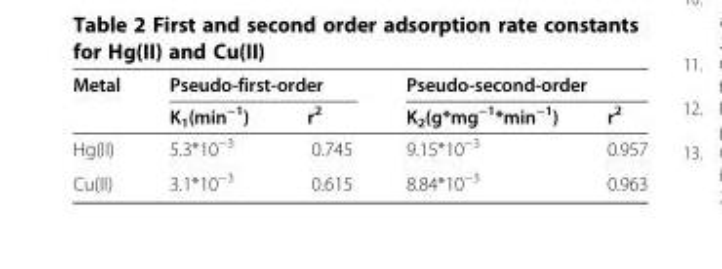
<table><thead><tr><td rowspan="2">Metal</td><td colspan="2">Pseudo-first-order</td><td colspan="2">Pseudo-second-order</td></tr><tr><td>K<sub>1</sub>(min<sup>−1</sup>)</td><td>r<sup>2</sup></td><td>K<sub>2</sub>(g*mg<sup>−1</sup>*min<sup>−1</sup>)</td><td>r<sup>2</sup></td></tr></thead><tbody><tr><td>Hg(II)</td><td>5.3*10<sup>−3</sup></td><td>0.745</td><td>9.15*10<sup>−3</sup></td><td>0.957</td></tr><tr><td>Cu(II)</td><td>3.1*10<sup>−3</sup></td><td>0.615</td><td>8.84*10<sup>−3</sup></td><td>0.963</td></tr></tbody></table>